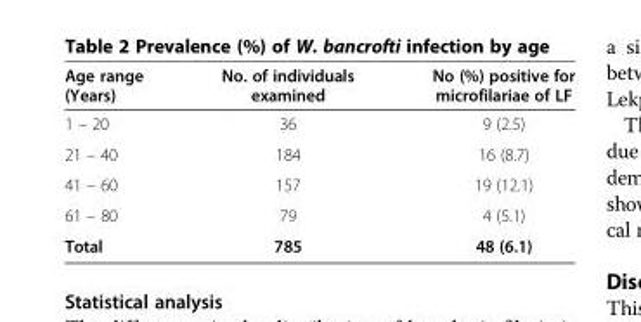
<table><thead><tr><td>Age range (Years)</td><td>No. of individuals examined</td><td>No (%) positive for microfilariae of LF</td></tr></thead><tbody><tr><td>1 – 20</td><td>36</td><td>9 (2.5)</td></tr><tr><td>21 – 40</td><td>184</td><td>16 (8.7)</td></tr><tr><td>41 – 60</td><td>157</td><td>19 (12.1)</td></tr><tr><td>61 – 80</td><td>79</td><td>4 (5.1)</td></tr><tr><td>Total</td><td>785</td><td>48 (6.1)</td></tr></tbody></table>